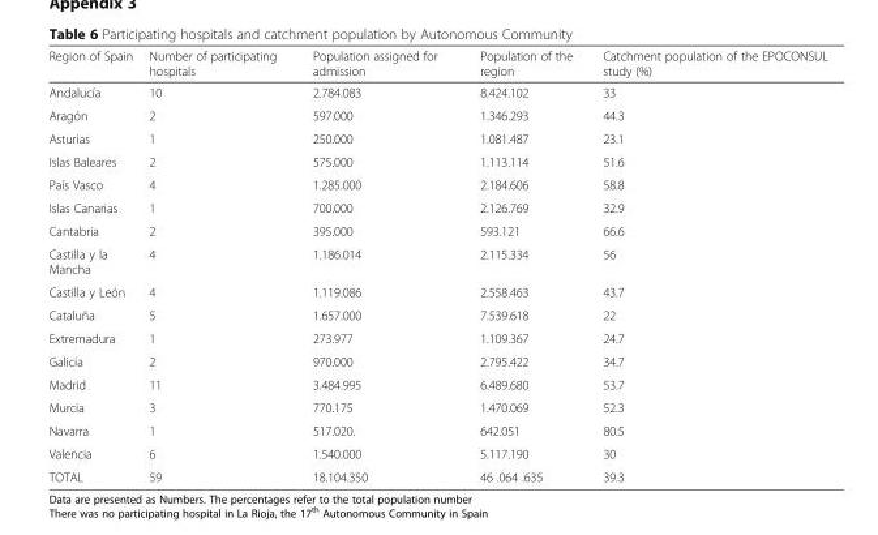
<table><thead><tr><td>Region of Spain</td><td>Number of participating hospitals</td><td>Population assigned for admission</td><td>Population of the region</td><td>Catchment population of the EPOCONSUL study (%)</td></tr></thead><tbody><tr><td>Andalucía</td><td>10</td><td>2.784.083</td><td>8.424.102</td><td>33</td></tr><tr><td>Aragón</td><td>2</td><td>597.000</td><td>1.346.293</td><td>44.3</td></tr><tr><td>Asturias</td><td>1</td><td>250.000</td><td>1.081.487</td><td>23.1</td></tr><tr><td>Islas Baleares</td><td>2</td><td>575.000</td><td>1.113.114</td><td>51.6</td></tr><tr><td>País Vasco</td><td>4</td><td>1.285.000</td><td>2.184.606</td><td>58.8</td></tr><tr><td>Islas Canarias</td><td>1</td><td>700.000</td><td>2.126.769</td><td>32.9</td></tr><tr><td>Cantabria</td><td>2</td><td>395.000</td><td>593.121</td><td>66.6</td></tr><tr><td>Castilla y la Mancha</td><td>4</td><td>1.186.014</td><td>2.115.334</td><td>56</td></tr><tr><td>Castilla y León</td><td>4</td><td>1.119.086</td><td>2.558.463</td><td>43.7</td></tr><tr><td>Cataluña</td><td>5</td><td>1.657.000</td><td>7.539.618</td><td>22</td></tr><tr><td>Extremadura</td><td>1</td><td>273.977</td><td>1.109.367</td><td>24.7</td></tr><tr><td>Galicia</td><td>2</td><td>970.000</td><td>2.795.422</td><td>34.7</td></tr><tr><td>Madrid</td><td>11</td><td>3.484.995</td><td>6.489.680</td><td>53.7</td></tr><tr><td>Murcia</td><td>3</td><td>770.175</td><td>1.470.069</td><td>52.3</td></tr><tr><td>Navarra</td><td>1</td><td>517.020.</td><td>642.051</td><td>80.5</td></tr><tr><td>Valencia</td><td>6</td><td>1.540.000</td><td>5.117.190</td><td>30</td></tr><tr><td>TOTAL</td><td>59</td><td>18.104.350</td><td>46 .064 .635</td><td>39.3</td></tr></tbody></table>